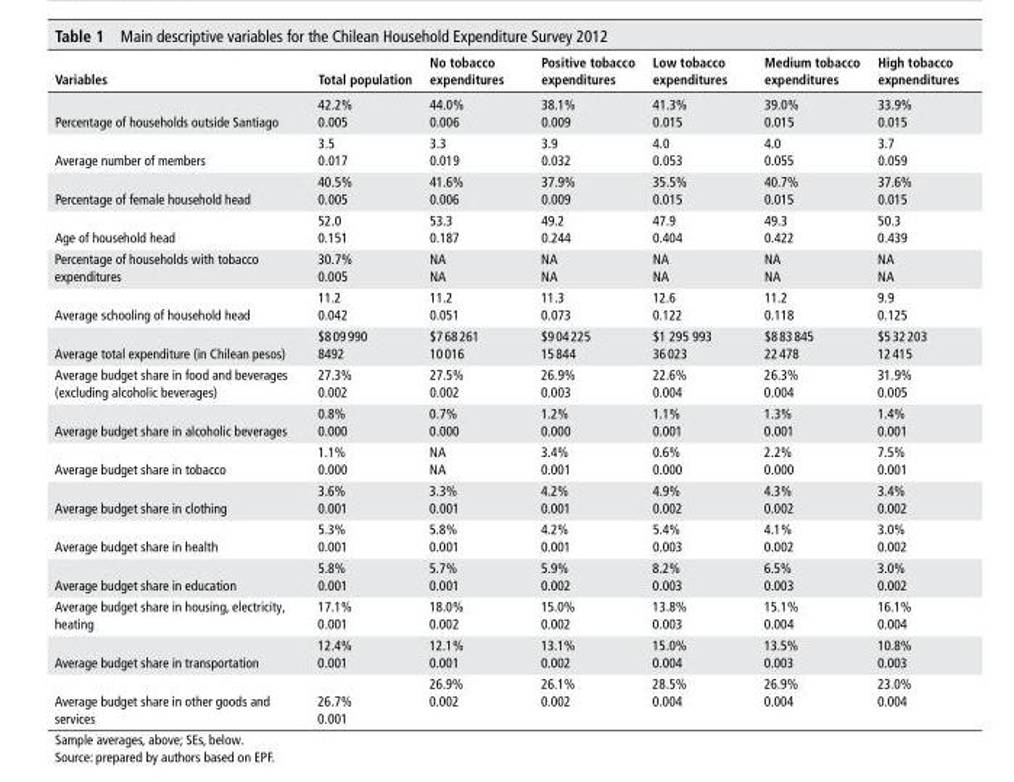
<table><thead><tr><td>Variables</td><td>Total population</td><td>no tobacco expenditures</td><td>Positive tobacco expenditures</td><td>Low tobacco expenditures</td><td>Medium tobacco expenditures</td><td>high tobacco expnenditures</td></tr></thead><tbody><tr><td>Percentage of households outside Santiago</td><td>42.2% 0.005</td><td>44.0% 0.006</td><td>38.1% 0.009</td><td>41.3% 0.015</td><td>39.0% 0.015</td><td>33.9% 0.015</td></tr><tr><td>Average number of members</td><td>3.5 0.017</td><td>3.3 0.019</td><td>3.9 0.032</td><td>4.0 0.053</td><td>4.0 0.055</td><td>3.7 0.059</td></tr><tr><td>Percentage of female household head</td><td>40.5% 0.005</td><td>41.6% 0.006</td><td>37.9% 0.009</td><td>35.5% 0.015</td><td>40.7% 0.015</td><td>37.6% 0.015</td></tr><tr><td>Age of household head</td><td>52.0 0.151</td><td>53.3 0.187</td><td>49.2 0.244</td><td>47.9 0.404</td><td>49.3 0.422</td><td>50.3 0.439</td></tr><tr><td>Percentage of households with tobacco expenditures</td><td>30.7% 0.005</td><td>NA NA</td><td>NA NA</td><td>NA NA</td><td>NA NA</td><td>NA NA</td></tr><tr><td>Average schooling of household head</td><td>11.2 0.042</td><td>11.2 0.051</td><td>11.3 0.073</td><td>12.6 0.122</td><td>11.2 0.118</td><td>9.9 0.125</td></tr><tr><td>Average total expenditure (in Chilean pesos)</td><td>$8 09 990 8492</td><td>$7 68 261 10 016</td><td>$9 04 225 15 844</td><td>$1 295 993 36 023</td><td>$8 83 845 22 478</td><td>$5 32 203 12 415</td></tr><tr><td>Average budget share in food and beverages (excluding alcoholic beverages)</td><td>27.3% 0.002</td><td>27.5% 0.002</td><td>26.9% 0.003</td><td>22.6% 0.004</td><td>26.3% 0.004</td><td>31.9% 0.005</td></tr><tr><td>Average budget share in alcoholic beverages</td><td>0.8% 0.000</td><td>0.7% 0.000</td><td>1.2% 0.000</td><td>1.1% 0.001</td><td>1.3% 0.001</td><td>1.4% 0.001</td></tr><tr><td>Average budget share in tobacco</td><td>1.1% 0.000</td><td>NA NA</td><td>3.4% 0.001</td><td>0.6% 0.000</td><td>2.2% 0.000</td><td>7.5% 0.001</td></tr><tr><td>Average budget share in clothing</td><td>3.6% 0.001</td><td>3.3% 0.001</td><td>4.2% 0.001</td><td>4.9% 0.002</td><td>4.3% 0.002</td><td>3.4% 0.002</td></tr><tr><td>Average budget share in health</td><td>5.3% 0.001</td><td>5.8% 0.001</td><td>4.2% 0.001</td><td>5.4% 0.003</td><td>4.1% 0.002</td><td>3.0% 0.002</td></tr><tr><td>Average budget share in education</td><td>5.8% 0.001</td><td>5.7% 0.001</td><td>5.9% 0.002</td><td>8.2% 0.003</td><td>6.5% 0.003</td><td>3.0% 0.002</td></tr><tr><td>Average budget share in housing, electricity, heating</td><td>17.1% 0.001</td><td>18.0% 0.002</td><td>15.0% 0.002</td><td>13.8% 0.003</td><td>15.1% 0.004</td><td>16.1% 0.004</td></tr><tr><td>Average budget share in transportation</td><td>12.4% 0.001</td><td>12.1% 0.001</td><td>13.1% 0.002</td><td>15.0% 0.004</td><td>13.5% 0.003</td><td>10.8% 0.003</td></tr><tr><td>Average budget share in other goods and services</td><td>26.7% 0.001</td><td>26.9% 0.002</td><td>26.1% 0.002</td><td>28.5% 0.004</td><td>26.9% 0.004</td><td>23.0% 0.004</td></tr></tbody></table>